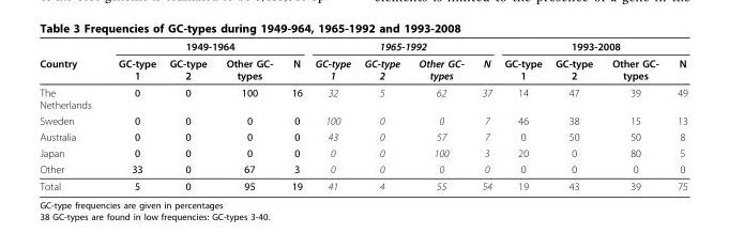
<table><thead><tr><td rowspan="2">Country</td><td colspan="4">1949-1964</td><td colspan="4">1965-1992</td><td colspan="4">1993-2008</td></tr><tr><td>GC-type 1</td><td>GC-type 2</td><td>Other GC- types</td><td>N</td><td>GC-type 1</td><td>GC-type 2</td><td>Other GC- types</td><td>N</td><td>GC-type 1</td><td>GC-type 2</td><td>Other GC- types</td><td>N</td></tr></thead><tbody><tr><td>The Netherlands</td><td>0</td><td>0</td><td>100</td><td>16</td><td>32</td><td>5</td><td>62</td><td>37</td><td>14</td><td>47</td><td>39</td><td>49</td></tr><tr><td>Sweden</td><td>0</td><td>0</td><td>0</td><td>0</td><td>100</td><td>0</td><td>0</td><td>7</td><td>46</td><td>38</td><td>15</td><td>13</td></tr><tr><td>Australia</td><td>0</td><td>0</td><td>0</td><td>0</td><td>43</td><td>0</td><td>57</td><td>7</td><td>0</td><td>50</td><td>50</td><td>8</td></tr><tr><td>Japan</td><td>0</td><td>0</td><td>0</td><td>0</td><td>0</td><td>0</td><td>100</td><td>3</td><td>20</td><td>0</td><td>80</td><td>5</td></tr><tr><td>Other</td><td>33</td><td>0</td><td>67</td><td>3</td><td>0</td><td>0</td><td>0</td><td>0</td><td>0</td><td>0</td><td>0</td><td>0</td></tr><tr><td>Total</td><td>5</td><td>0</td><td>95</td><td>19</td><td>41</td><td>4</td><td>55</td><td>54</td><td>19</td><td>43</td><td>39</td><td>75</td></tr></tbody></table>